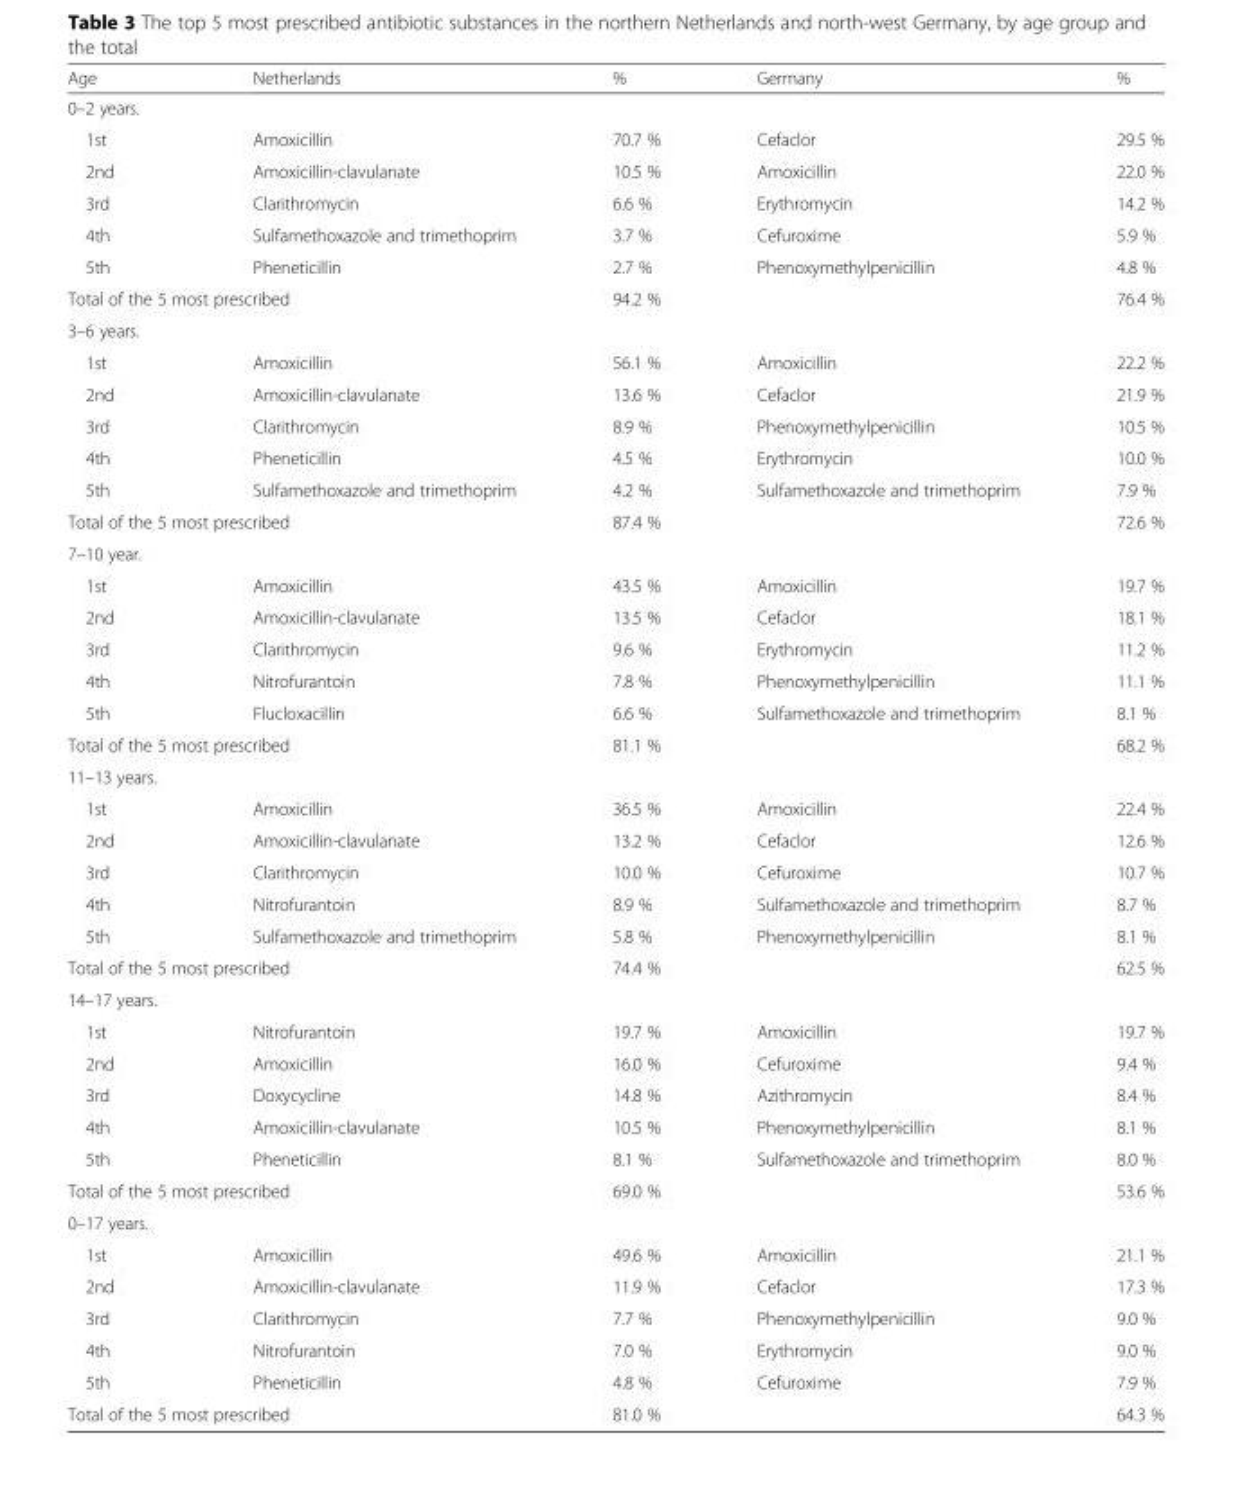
<table><thead><tr><td>Age</td><td>Netherlands</td><td>%</td><td>Germany</td><td>%</td></tr></thead><tbody><tr><td colspan="5">0–2 years.</td></tr><tr><td>1st</td><td>Amoxicillin</td><td>70.7 %</td><td>Cefaclor</td><td>29.5 %</td></tr><tr><td>2nd</td><td>Amoxicillin-clavulanate</td><td>10.5 %</td><td>Amoxicillin</td><td>22.0 %</td></tr><tr><td>3rd</td><td>Clarithromycin</td><td>6.6 %</td><td>Erythromycin</td><td>14.2 %</td></tr><tr><td>4th</td><td>Sulfamethoxazole and trimethoprim</td><td>3.7 %</td><td>Cefuroxime</td><td>5.9 %</td></tr><tr><td>5th</td><td>Pheneticillin</td><td>2.7 %</td><td>Phenoxymethylpenicillin</td><td>4.8 %</td></tr><tr><td colspan="2">Total of the 5 most prescribed</td><td>94.2 %</td><td></td><td>76.4 %</td></tr><tr><td colspan="5">3–6 years.</td></tr><tr><td>1st</td><td>Amoxicillin</td><td>56.1 %</td><td>Amoxicillin</td><td>22.2 %</td></tr><tr><td>2nd</td><td>Amoxicillin-clavulanate</td><td>13.6 %</td><td>Cefaclor</td><td>21.9 %</td></tr><tr><td>3rd</td><td>Clarithromycin</td><td>8.9 %</td><td>Phenoxymethylpenicillin</td><td>10.5 %</td></tr><tr><td>4th</td><td>Pheneticillin</td><td>4.5 %</td><td>Erythromycin</td><td>10.0 %</td></tr><tr><td>5th</td><td>Sulfamethoxazole and trimethoprim</td><td>4.2 %</td><td>Sulfamethoxazole and trimethoprim</td><td>7.9 %</td></tr><tr><td colspan="2">Total of the 5 most prescribed</td><td>87.4 %</td><td></td><td>72.6 %</td></tr><tr><td colspan="5">7–10 year.</td></tr><tr><td>1st</td><td>Amoxicillin</td><td>43.5 %</td><td>Amoxicillin</td><td>19.7 %</td></tr><tr><td>2nd</td><td>Amoxicillin-clavulanate</td><td>13.5 %</td><td>Cefaclor</td><td>18.1 %</td></tr><tr><td>3rd</td><td>Clarithromycin</td><td>9.6 %</td><td>Erythromycin</td><td>11.2 %</td></tr><tr><td>4th</td><td>Nitrofurantoin</td><td>7.8 %</td><td>Phenoxymethylpenicillin</td><td>11.1 %</td></tr><tr><td>5th</td><td>Flucloxacillin</td><td>6.6 %</td><td>Sulfamethoxazole and trimethoprim</td><td>8.1 %</td></tr><tr><td colspan="2">Total of the 5 most prescribed</td><td>81.1 %</td><td></td><td>68.2 %</td></tr><tr><td colspan="5">11–13 years.</td></tr><tr><td>1st</td><td>Amoxicillin</td><td>36.5 %</td><td>Amoxicillin</td><td>22.4 %</td></tr><tr><td>2nd</td><td>Amoxicillin-clavulanate</td><td>13.2 %</td><td>Cefaclor</td><td>12.6 %</td></tr><tr><td>3rd</td><td>Clarithromycin</td><td>10.0 %</td><td>Cefuroxime</td><td>10.7 %</td></tr><tr><td>4th</td><td>Nitrofurantoin</td><td>8.9 %</td><td>Sulfamethoxazole and trimethoprim</td><td>8.7 %</td></tr><tr><td>5th</td><td>Sulfamethoxazole and trimethoprim</td><td>5.8 %</td><td>Phenoxymethylpenicillin</td><td>8.1 %</td></tr><tr><td colspan="2">Total of the 5 most prescribed</td><td>74.4 %</td><td></td><td>62.5 %</td></tr><tr><td colspan="5">14–17 years.</td></tr><tr><td>1st</td><td>Nitrofurantoin</td><td>19.7 %</td><td>Amoxicillin</td><td>19.7 %</td></tr><tr><td>2nd</td><td>Amoxicillin</td><td>16.0 %</td><td>Cefuroxime</td><td>9.4 %</td></tr><tr><td>3rd</td><td>Doxycycline</td><td>14.8 %</td><td>Azithromycin</td><td>8.4 %</td></tr><tr><td>4th</td><td>Amoxicillin-clavulanate</td><td>10.5 %</td><td>Phenoxymethylpenicillin</td><td>8.1 %</td></tr><tr><td>5th</td><td>Pheneticillin</td><td>8.1 %</td><td>Sulfamethoxazole and trimethoprim</td><td>8.0 %</td></tr><tr><td colspan="2">Total of the 5 most prescribed</td><td>69.0 %</td><td></td><td>53.6 %</td></tr><tr><td colspan="5">0–17 years.</td></tr><tr><td>1st</td><td>Amoxicillin</td><td>49.6 %</td><td>Amoxicillin</td><td>21.1 %</td></tr><tr><td>2nd</td><td>Amoxicillin-clavulanate</td><td>11.9 %</td><td>Cefaclor</td><td>17.3 %</td></tr><tr><td>3rd</td><td>Clarithromycin</td><td>7.7 %</td><td>Phenoxymethylpenicillin</td><td>9.0 %</td></tr><tr><td>4th</td><td>Nitrofurantoin</td><td>7.0 %</td><td>Erythromycin</td><td>9.0 %</td></tr><tr><td>5th</td><td>Pheneticillin</td><td>4.8 %</td><td>Cefuroxime</td><td>7.9 %</td></tr><tr><td colspan="2">Total of the 5 most prescribed</td><td>81.0 %</td><td></td><td>64.3 %</td></tr></tbody></table>